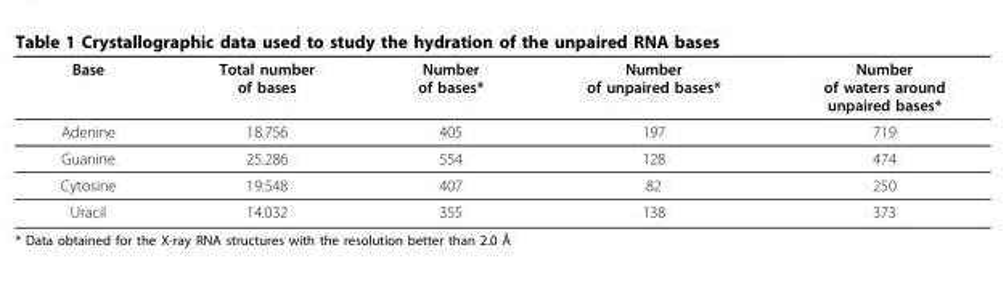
<table><thead><tr><td>Base</td><td>Total number of bases</td><td>Number of bases*</td><td>Number of unpaired bases*</td><td>Number of waters around unpaired bases*</td></tr></thead><tbody><tr><td>Adenine</td><td>18.756</td><td>405</td><td>197</td><td>719</td></tr><tr><td>Guanine</td><td>25.286</td><td>554</td><td>128</td><td>474</td></tr><tr><td>Cytosine</td><td>19.548</td><td>407</td><td>82</td><td>250</td></tr><tr><td>Uracil</td><td>14.032</td><td>355</td><td>138</td><td>373</td></tr></tbody></table>